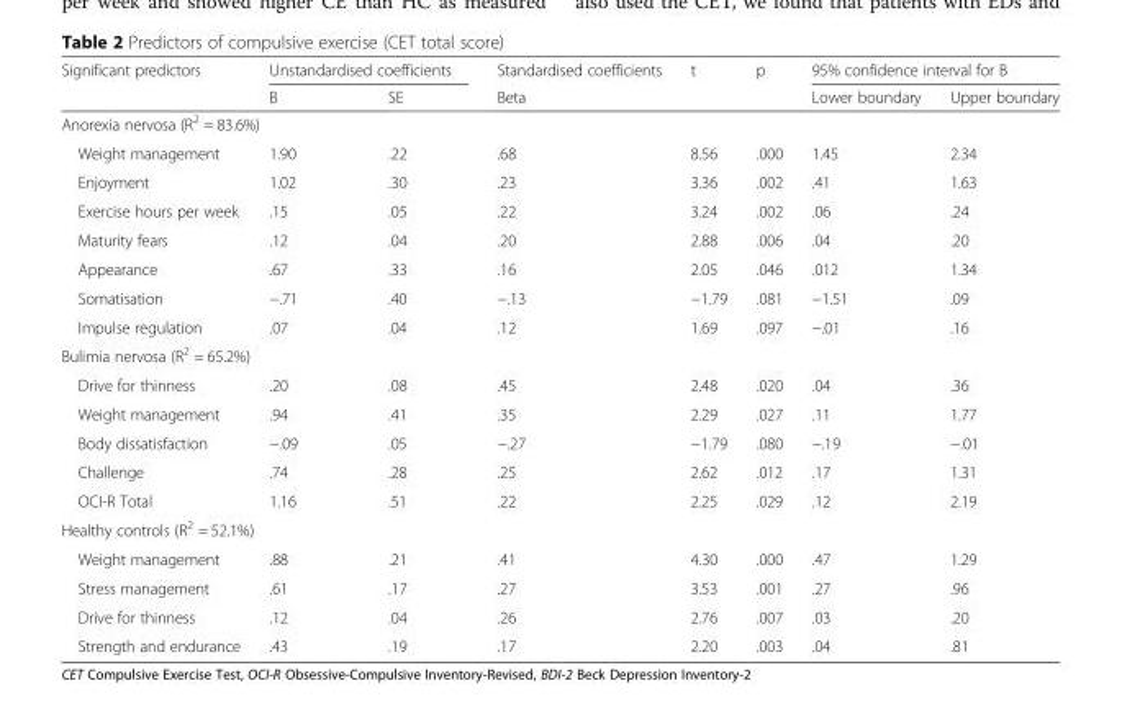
<table><thead><tr><td rowspan="2">Significant predictors</td><td colspan="2">Unstandardised coefficients</td><td rowspan="2">Standardised coefficients Beta</td><td rowspan="2">t</td><td rowspan="2">p</td><td colspan="2">95% confidence interval for B</td></tr><tr><td>B</td><td>SE</td><td>Lower boundary</td><td>Upper boundary</td></tr></thead><tbody><tr><td colspan="8">Anorexia nervosa (R<sup>2</sup> = 83.6%)</td></tr><tr><td>Weight management</td><td>1.90</td><td>.22</td><td>.68</td><td>8.56</td><td>.000</td><td>1.45</td><td>2.34</td></tr><tr><td>Enjoyment</td><td>1.02</td><td>.30</td><td>.23</td><td>3.36</td><td>.002</td><td>.41</td><td>1.63</td></tr><tr><td>Exercise hours per week</td><td>.15</td><td>.05</td><td>.22</td><td>3.24</td><td>.002</td><td>.06</td><td>.24</td></tr><tr><td>Maturity fears</td><td>.12</td><td>.04</td><td>.20</td><td>2.88</td><td>.006</td><td>.04</td><td>.20</td></tr><tr><td>Appearance</td><td>.67</td><td>.33</td><td>.16</td><td>2.05</td><td>.046</td><td>.012</td><td>1.34</td></tr><tr><td>Somatisation</td><td>−.71</td><td>.40</td><td>−.13</td><td>−1.79</td><td>.081</td><td>−1.51</td><td>.09</td></tr><tr><td>Impulse regulation</td><td>.07</td><td>.04</td><td>.12</td><td>1.69</td><td>.097</td><td>−.01</td><td>.16</td></tr><tr><td colspan="8">Bulimia nervosa (R<sup>2</sup> = 65.2%)</td></tr><tr><td>Drive for thinness</td><td>.20</td><td>.08</td><td>.45</td><td>2.48</td><td>.020</td><td>.04</td><td>.36</td></tr><tr><td>Weight management</td><td>.94</td><td>.41</td><td>.35</td><td>2.29</td><td>.027</td><td>.11</td><td>1.77</td></tr><tr><td>Body dissatisfaction</td><td>−.09</td><td>.05</td><td>−.27</td><td>−1.79</td><td>.080</td><td>−.19</td><td>−.01</td></tr><tr><td>Challenge</td><td>.74</td><td>.28</td><td>.25</td><td>2.62</td><td>.012</td><td>.17</td><td>1.31</td></tr><tr><td>OCI-R Total</td><td>1.16</td><td>.51</td><td>.22</td><td>2.25</td><td>.029</td><td>.12</td><td>2.19</td></tr><tr><td colspan="8">Healthy controls (R<sup>2</sup> = 52.1%)</td></tr><tr><td>Weight management</td><td>.88</td><td>.21</td><td>.41</td><td>4.30</td><td>.000</td><td>.47</td><td>1.29</td></tr><tr><td>Stress management</td><td>.61</td><td>.17</td><td>.27</td><td>3.53</td><td>.001</td><td>.27</td><td>.96</td></tr><tr><td>Drive for thinness</td><td>.12</td><td>.04</td><td>.26</td><td>2.76</td><td>.007</td><td>.03</td><td>.20</td></tr><tr><td>Strength and endurance</td><td>.43</td><td>.19</td><td>.17</td><td>2.20</td><td>.003</td><td>.04</td><td>.81</td></tr></tbody></table>